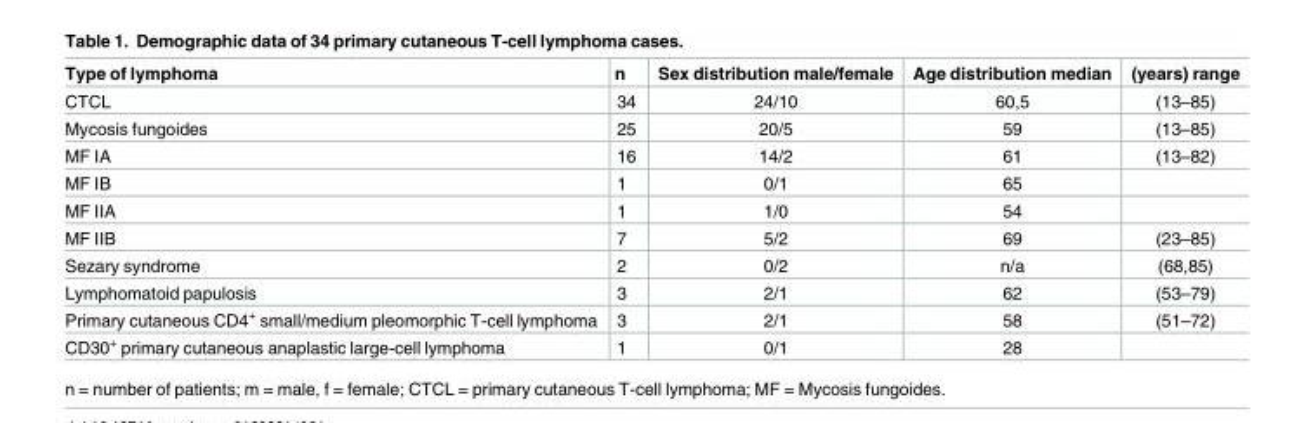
<table><thead><tr><td>Type of lymphoma</td><td>n</td><td>Sex distribution male/female</td><td>Age distribution median</td><td>(years) range</td></tr></thead><tbody><tr><td>CTCL</td><td>34</td><td>24/10</td><td>60,5</td><td>(13–85)</td></tr><tr><td>Mycosis fungoides</td><td>25</td><td>20/5</td><td>59</td><td>(13–85)</td></tr><tr><td>MF IA</td><td>16</td><td>14/2</td><td>61</td><td>(13–82)</td></tr><tr><td>MF IB</td><td>1</td><td>0/1</td><td>65</td><td></td></tr><tr><td>MF IIA</td><td>1</td><td>1/0</td><td>54</td><td></td></tr><tr><td>MF IIB</td><td>7</td><td>5/2</td><td>69</td><td>(23–85)</td></tr><tr><td>Sezary syndrome</td><td>2</td><td>0/2</td><td>n/a</td><td>(68,85)</td></tr><tr><td>Lymphomatoid papulosis</td><td>3</td><td>2/1</td><td>62</td><td>(53–79)</td></tr><tr><td>Primary cutaneous CD4<sup>+</sup> small/medium pleomorphic T-cell lymphoma</td><td>3</td><td>2/1</td><td>58</td><td>(51–72)</td></tr><tr><td>CD30<sup>+</sup> primary cutaneous anaplastic large-cell lymphoma</td><td>1</td><td>0/1</td><td>28</td><td></td></tr></tbody></table>